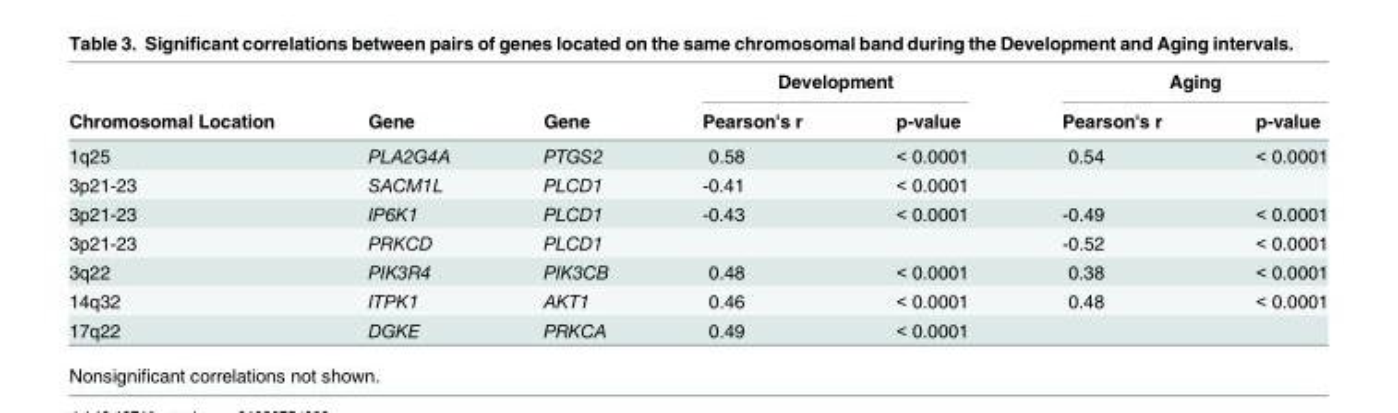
<table><thead><tr><td rowspan="2">Chromosomal Location</td><td rowspan="2">Gene</td><td rowspan="2">Gene</td><td colspan="2">Development</td><td colspan="2">Aging</td></tr><tr><td>Pearson&#x27;s r</td><td>p-value</td><td>Pearson&#x27;s r</td><td>p-value</td></tr></thead><tbody><tr><td>1q25</td><td>PLA2G4A</td><td>PTGS2</td><td>0.58</td><td>&lt; 0.0001</td><td>0.54</td><td>&lt; 0.0001</td></tr><tr><td>3p21-23</td><td>SACM1L</td><td>PLCD1</td><td>-0.41</td><td>&lt; 0.0001</td><td></td><td></td></tr><tr><td>3p21-23</td><td>IP6K1</td><td>PLCD1</td><td>-0.43</td><td>&lt; 0.0001</td><td>-0.49</td><td>&lt; 0.0001</td></tr><tr><td>3p21-23</td><td>PRKCD</td><td>PLCD1</td><td></td><td></td><td>-0.52</td><td>&lt; 0.0001</td></tr><tr><td>3q22</td><td>PIK3R4</td><td>PIK3CB</td><td>0.48</td><td>&lt; 0.0001</td><td>0.38</td><td>&lt; 0.0001</td></tr><tr><td>14q32</td><td>ITPK1</td><td>AKT1</td><td>0.46</td><td>&lt; 0.0001</td><td>0.48</td><td>&lt; 0.0001</td></tr><tr><td>17q22</td><td>DGKE</td><td>PRKCA</td><td>0.49</td><td>&lt; 0.0001</td><td></td><td></td></tr></tbody></table>